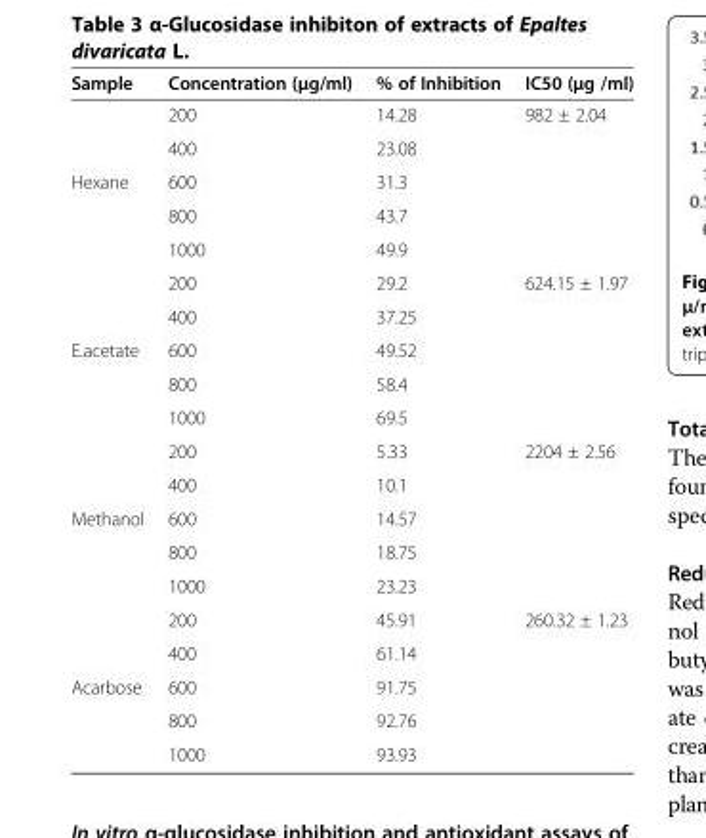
<table><thead><tr><td>Sample</td><td>Concentration (μg/ml)</td><td>% of Inhibition</td><td>IC50 (μg /ml)</td></tr></thead><tbody><tr><td></td><td>200</td><td>14.28</td><td>982 ± 2.04</td></tr><tr><td></td><td>400</td><td>23.08</td><td></td></tr><tr><td rowspan="5">Hexane</td><td>600</td><td>31.3</td><td></td></tr><tr><td>800</td><td>43.7</td><td></td></tr><tr><td>1000</td><td>49.9</td><td></td></tr><tr><td>200</td><td>29.2</td><td>624.15 ± 1.97</td></tr><tr><td>400</td><td>37.25</td><td></td></tr><tr><td rowspan="5">E.acetate</td><td>600</td><td>49.52</td><td></td></tr><tr><td>800</td><td>58.4</td><td></td></tr><tr><td>1000</td><td>69.5</td><td></td></tr><tr><td>200</td><td>5.33</td><td>2204 ± 2.56</td></tr><tr><td>400</td><td>10.1</td><td></td></tr><tr><td rowspan="5">Methanol</td><td>600</td><td>14.57</td><td></td></tr><tr><td>800</td><td>18.75</td><td></td></tr><tr><td>1000</td><td>23.23</td><td></td></tr><tr><td>200</td><td>45.91</td><td>260.32 ± 1.23</td></tr><tr><td>400</td><td>61.14</td><td></td></tr><tr><td rowspan="3">Acarbose</td><td>600</td><td>91.75</td><td></td></tr><tr><td>800</td><td>92.76</td><td></td></tr><tr><td>1000</td><td>93.93</td><td></td></tr></tbody></table>